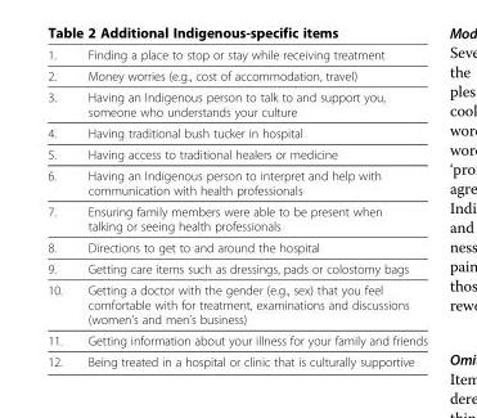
<table><thead><tr><td>1.</td><td>Finding a place to stop or stay while receiving treatment</td></tr></thead><tbody><tr><td>2.</td><td>Money worries (e.g., cost of accommodation, travel)</td></tr><tr><td>3.</td><td>Having an Indigenous person to talk to and support you, someone who understands your culture</td></tr><tr><td>4.</td><td>Having traditional bush tucker in hospital</td></tr><tr><td>5.</td><td>Having access to traditional healers or medicine</td></tr><tr><td>6.</td><td>Having an Indigenous person to interpret and help with communication with health professionals</td></tr><tr><td>7.</td><td>Ensuring family members were able to be present when talking or seeing health professionals</td></tr><tr><td>8.</td><td>Directions to get to and around the hospital</td></tr><tr><td>9.</td><td>Getting care items such as dressings, pads or colostomy bags</td></tr><tr><td>10.</td><td>Getting a doctor with the gender (e.g., sex) that you feel comfortable with for treatment, examinations and discussions (women’s and men’s business)</td></tr><tr><td>11.</td><td>Getting information about your illness for your family and friends</td></tr><tr><td>12.</td><td>Being treated in a hospital or clinic that is culturally supportive</td></tr></tbody></table>